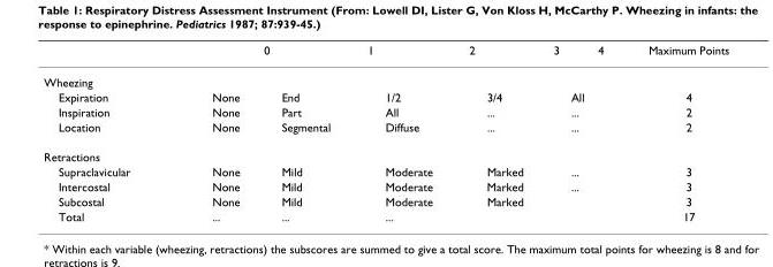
<table><thead><tr><td></td><td>0</td><td>1</td><td>2</td><td>3</td><td>4</td><td>Maximum Points</td></tr></thead><tbody><tr><td colspan="7">Wheezing</td></tr><tr><td>Expiration</td><td>None</td><td>End</td><td>1/2</td><td>3/4</td><td>All</td><td>4</td></tr><tr><td>Inspiration</td><td>None</td><td>Part</td><td>All</td><td>...</td><td>...</td><td>2</td></tr><tr><td>Location</td><td>None</td><td>Segmental</td><td>Diffuse</td><td>...</td><td>...</td><td>2</td></tr><tr><td colspan="7">Retractions</td></tr><tr><td>Supraclavicular</td><td>None</td><td>Mild</td><td>Moderate</td><td>Marked</td><td>...</td><td>3</td></tr><tr><td>Intercostal</td><td>None</td><td>Mild</td><td>Moderate</td><td>Marked</td><td>...</td><td>3</td></tr><tr><td>Subcostal</td><td>None</td><td>Mild</td><td>Moderate</td><td>Marked</td><td></td><td>3</td></tr><tr><td>Total</td><td>...</td><td>...</td><td>...</td><td></td><td></td><td>17</td></tr></tbody></table>